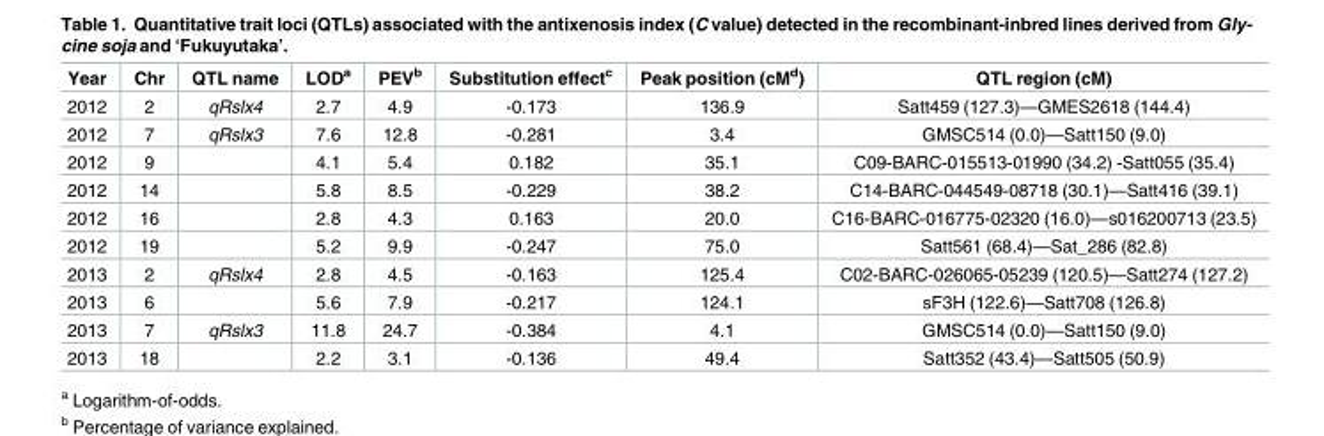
<table><thead><tr><td>Year</td><td>Chr</td><td>QTL name</td><td>LOD<sup>a</sup></td><td>PEV<sup>b</sup></td><td>Substitution effect<sup>c</sup></td><td>Peak position (cM<sup>d</sup>)</td><td>QTL region (cM)</td></tr></thead><tbody><tr><td>2012</td><td>2</td><td>qRslx4</td><td>2.7</td><td>4.9</td><td>-0.173</td><td>136.9</td><td>Satt459 (127.3)—GMES2618 (144.4)</td></tr><tr><td>2012</td><td>7</td><td>qRslx3</td><td>7.6</td><td>12.8</td><td>-0.281</td><td>3.4</td><td>GMSC514 (0.0)—Satt150 (9.0)</td></tr><tr><td>2012</td><td>9</td><td></td><td>4.1</td><td>5.4</td><td>0.182</td><td>35.1</td><td>C09-BARC-015513-01990 (34.2) -Satt055 (35.4)</td></tr><tr><td>2012</td><td>14</td><td></td><td>5.8</td><td>8.5</td><td>-0.229</td><td>38.2</td><td>C14-BARC-044549-08718 (30.1)—Satt416 (39.1)</td></tr><tr><td>2012</td><td>16</td><td></td><td>2.8</td><td>4.3</td><td>0.163</td><td>20.0</td><td>C16-BARC-016775-02320 (16.0)—s016200713 (23.5)</td></tr><tr><td>2012</td><td>19</td><td></td><td>5.2</td><td>9.9</td><td>-0.247</td><td>75.0</td><td>Satt561 (68.4)—Sat_286 (82.8)</td></tr><tr><td>2013</td><td>2</td><td>qRslx4</td><td>2.8</td><td>4.5</td><td>-0.163</td><td>125.4</td><td>C02-BARC-026065-05239 (120.5)—Satt274 (127.2)</td></tr><tr><td>2013</td><td>6</td><td></td><td>5.6</td><td>7.9</td><td>-0.217</td><td>124.1</td><td>sF3H (122.6)—Satt708 (126.8)</td></tr><tr><td>2013</td><td>7</td><td>qRslx3</td><td>11.8</td><td>24.7</td><td>-0.384</td><td>4.1</td><td>GMSC514 (0.0)—Satt150 (9.0)</td></tr><tr><td>2013</td><td>18</td><td></td><td>2.2</td><td>3.1</td><td>-0.136</td><td>49.4</td><td>Satt352 (43.4)—Satt505 (50.9)</td></tr></tbody></table>